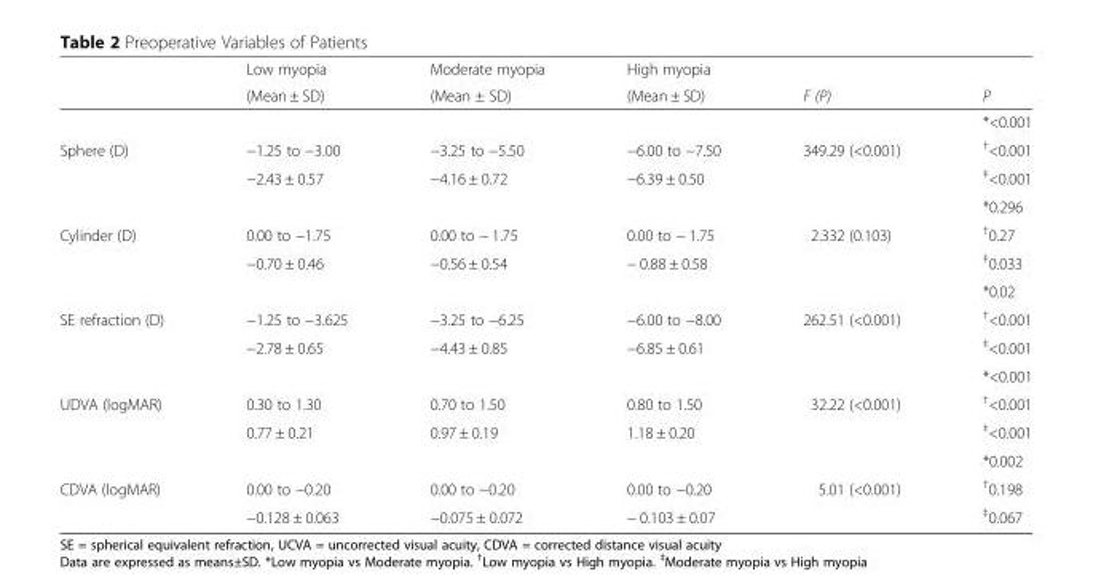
<table><thead><tr><td rowspan="2"></td><td rowspan="2">Low myopia (Mean ± SD)</td><td rowspan="2">Moderate myopia (Mean ± SD)</td><td rowspan="2">High myopia (Mean ± SD)</td><td rowspan="2">F (P)</td><td rowspan="2">P</td></tr><tr></tr></thead><tbody><tr><td></td><td></td><td></td><td></td><td></td><td>*&lt;0.001</td></tr><tr><td rowspan="3">Sphere (D)</td><td>−1.25 to −3.00</td><td>−3.25 to −5.50</td><td>−6.00 to −7.50</td><td>349.29 (&lt;0.001)</td><td><sup>†</sup>&lt;0.001</td></tr><tr><td>−2.43 ± 0.57</td><td>−4.16 ± 0.72</td><td>−6.39 ± 0.50</td><td></td><td><sup>‡</sup>&lt;0.001</td></tr><tr><td></td><td></td><td></td><td></td><td>*0.296</td></tr><tr><td rowspan="3">Cylinder (D)</td><td>0.00 to −1.75</td><td>0.00 to − 1.75</td><td>0.00 to − 1.75</td><td>2.332 (0.103)</td><td><sup>†</sup>0.27</td></tr><tr><td>−0.70 ± 0.46</td><td>−0.56 ± 0.54</td><td>− 0.88 ± 0.58</td><td></td><td><sup>‡</sup>0.033</td></tr><tr><td></td><td></td><td></td><td></td><td>*0.02</td></tr><tr><td rowspan="3">SE refraction (D)</td><td>−1.25 to −3.625</td><td>−3.25 to −6.25</td><td>−6.00 to −8.00</td><td>262.51 (&lt;0.001)</td><td><sup>†</sup>&lt;0.001</td></tr><tr><td>−2.78 ± 0.65</td><td>−4.43 ± 0.85</td><td>−6.85 ± 0.61</td><td></td><td><sup>‡</sup>&lt;0.001</td></tr><tr><td></td><td></td><td></td><td></td><td>*&lt;0.001</td></tr><tr><td rowspan="3">UDVA (logMAR)</td><td>0.30 to 1.30</td><td>0.70 to 1.50</td><td>0.80 to 1.50</td><td>32.22 (&lt;0.001)</td><td><sup>†</sup>&lt;0.001</td></tr><tr><td>0.77 ± 0.21</td><td>0.97 ± 0.19</td><td>1.18 ± 0.20</td><td></td><td><sup>‡</sup>&lt;0.001</td></tr><tr><td></td><td></td><td></td><td></td><td>*0.002</td></tr><tr><td rowspan="2">CDVA (logMAR)</td><td>0.00 to −0.20</td><td>0.00 to −0.20</td><td>0.00 to −0.20</td><td>5.01 (&lt;0.001)</td><td><sup>†</sup>0.198</td></tr><tr><td>−0.128 ± 0.063</td><td>−0.075 ± 0.072</td><td>− 0.103 ± 0.07</td><td></td><td><sup>‡</sup>0.067</td></tr></tbody></table>